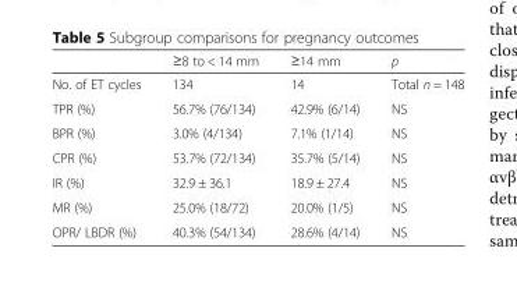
<table><thead><tr><td></td><td>≥8 to &lt; 14 mm</td><td>≥14 mm</td><td>p</td></tr></thead><tbody><tr><td>No. of ET cycles</td><td>134</td><td>14</td><td>Total n = 148</td></tr><tr><td>TPR (%)</td><td>56.7% (76/134)</td><td>42.9% (6/14)</td><td>NS</td></tr><tr><td>BPR (%)</td><td>3.0% (4/134)</td><td>7.1% (1/14)</td><td>NS</td></tr><tr><td>CPR (%)</td><td>53.7% (72/134)</td><td>35.7% (5/14)</td><td>NS</td></tr><tr><td>IR (%)</td><td>32.9 ± 36.1</td><td>18.9 ± 27.4</td><td>NS</td></tr><tr><td>MR (%)</td><td>25.0% (18/72)</td><td>20.0% (1/5)</td><td>NS</td></tr><tr><td>OPR/ LBDR (%)</td><td>40.3% (54/134)</td><td>28.6% (4/14)</td><td>NS</td></tr></tbody></table>